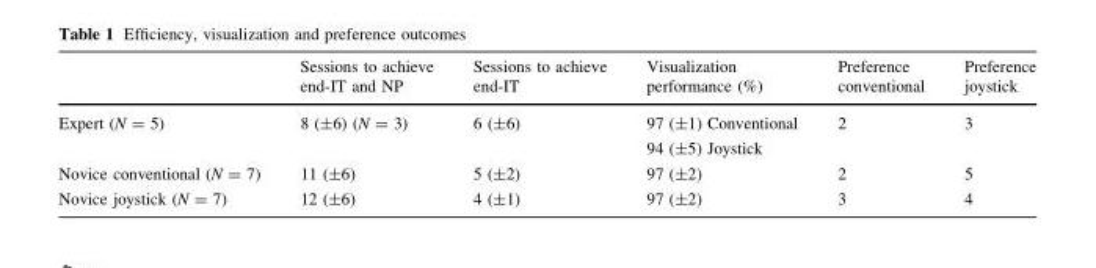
<table><thead><tr><td></td><td>Sessions to achieve end-IT and NP</td><td>Sessions to achieve end-IT</td><td>Visualization performance (%)</td><td>Preference conventional</td><td>Preference joystick</td></tr></thead><tbody><tr><td rowspan="2">Expert (N = 5)</td><td rowspan="2">8 (±6) (N = 3)</td><td rowspan="2">6 (±6)</td><td>97 (±1) Conventional</td><td rowspan="2">2</td><td rowspan="2">3</td></tr><tr><td>94 (±5) Joystick</td></tr><tr><td>Novice conventional (N = 7)</td><td>11 (±6)</td><td>5 (±2)</td><td>97 (±2)</td><td>2</td><td>5</td></tr><tr><td>Novice joystick (N = 7)</td><td>12 (±6)</td><td>4 (±1)</td><td>97 (±2)</td><td>3</td><td>4</td></tr></tbody></table>